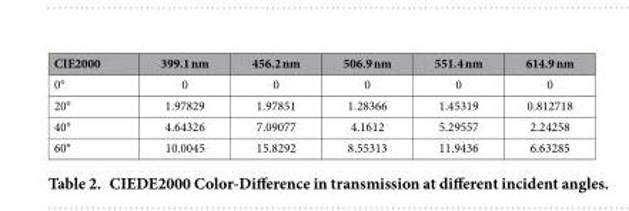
<table><thead><tr><td>CIE2000</td><td>399.1 nm</td><td>456.2 nm</td><td>506.9 nm</td><td>551.4 nm</td><td>614.9 nm</td></tr></thead><tbody><tr><td>0°</td><td>0</td><td>0</td><td>0</td><td>0</td><td>0</td></tr><tr><td>20°</td><td>1.97829</td><td>1.97851</td><td>1.28366</td><td>1.45319</td><td>0.812718</td></tr><tr><td>40°</td><td>4.64326</td><td>7.09077</td><td>4.1612</td><td>5.29557</td><td>2.24258</td></tr><tr><td>60°</td><td>10.0045</td><td>15.8292</td><td>8.55313</td><td>11.9436</td><td>6.63285</td></tr></tbody></table>